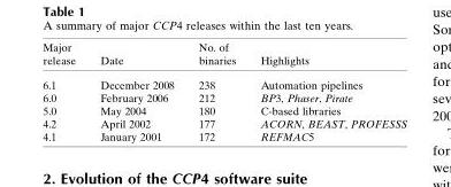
<table><thead><tr><td>Major release</td><td>Date</td><td>No. of binaries</td><td>Highlights</td></tr></thead><tbody><tr><td>6.1</td><td>December 2008</td><td>238</td><td>Automation pipelines</td></tr><tr><td>6.0</td><td>February 2006</td><td>212</td><td>BP3, Phaser, Pirate</td></tr><tr><td>5.0</td><td>May 2004</td><td>180</td><td>C-based libraries</td></tr><tr><td>4.2</td><td>April 2002</td><td>177</td><td>ACORN, BEAST, PROFESSS</td></tr><tr><td>4.1</td><td>January 2001</td><td>172</td><td>REFMAC5</td></tr></tbody></table>